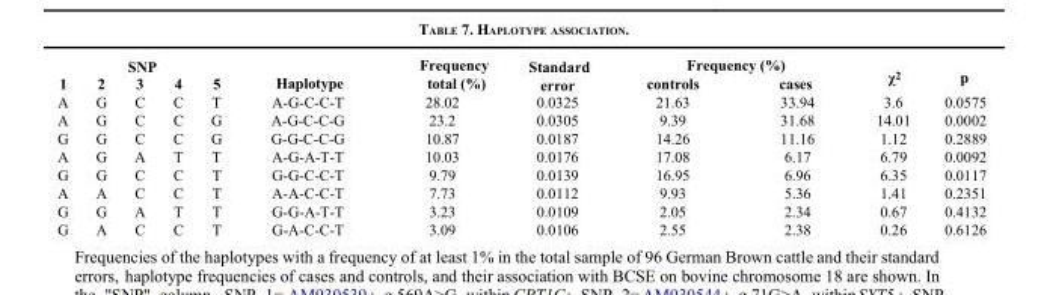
<table><thead><tr><td colspan="5">SNP</td><td rowspan="2">Haplotype</td><td rowspan="2">Frequency total (%)</td><td rowspan="2">Standard error</td><td colspan="2">Frequency (%)</td><td rowspan="2">χ<sup>2</sup></td><td rowspan="2">p</td></tr><tr><td>1</td><td>2</td><td>3</td><td>4</td><td>5</td><td>controls</td><td>cases</td></tr></thead><tbody><tr><td>A</td><td>G</td><td>C</td><td>C</td><td>T</td><td>A-G-C-C-T</td><td>28.02</td><td>0.0325</td><td>21.63</td><td>33.94</td><td>3.6</td><td>0.0575</td></tr><tr><td>A</td><td>G</td><td>C</td><td>C</td><td>G</td><td>A-G-C-C-G</td><td>23.2</td><td>0.0305</td><td>9.39</td><td>31.68</td><td>14.01</td><td>0.0002</td></tr><tr><td>G</td><td>G</td><td>C</td><td>C</td><td>G</td><td>G-G-C-C-G</td><td>10.87</td><td>0.0187</td><td>14.26</td><td>11.16</td><td>1.12</td><td>0.2889</td></tr><tr><td>A</td><td>G</td><td>A</td><td>T</td><td>T</td><td>A-G-A-T-T</td><td>10.03</td><td>0.0176</td><td>17.08</td><td>6.17</td><td>6.79</td><td>0.0092</td></tr><tr><td>G</td><td>G</td><td>C</td><td>C</td><td>T</td><td>G-G-C-C-T</td><td>9.79</td><td>0.0139</td><td>16.95</td><td>6.96</td><td>6.35</td><td>0.0117</td></tr><tr><td>A</td><td>A</td><td>C</td><td>C</td><td>T</td><td>A-A-C-C-T</td><td>7.73</td><td>0.0112</td><td>9.93</td><td>5.36</td><td>1.41</td><td>0.2351</td></tr><tr><td>G</td><td>G</td><td>A</td><td>T</td><td>T</td><td>G-G-A-T-T</td><td>3.23</td><td>0.0109</td><td>2.05</td><td>2.34</td><td>0.67</td><td>0.4132</td></tr><tr><td>G</td><td>A</td><td>C</td><td>C</td><td>T</td><td>G-A-C-C-T</td><td>3.09</td><td>0.0106</td><td>2.55</td><td>2.38</td><td>0.26</td><td>0.6126</td></tr></tbody></table>